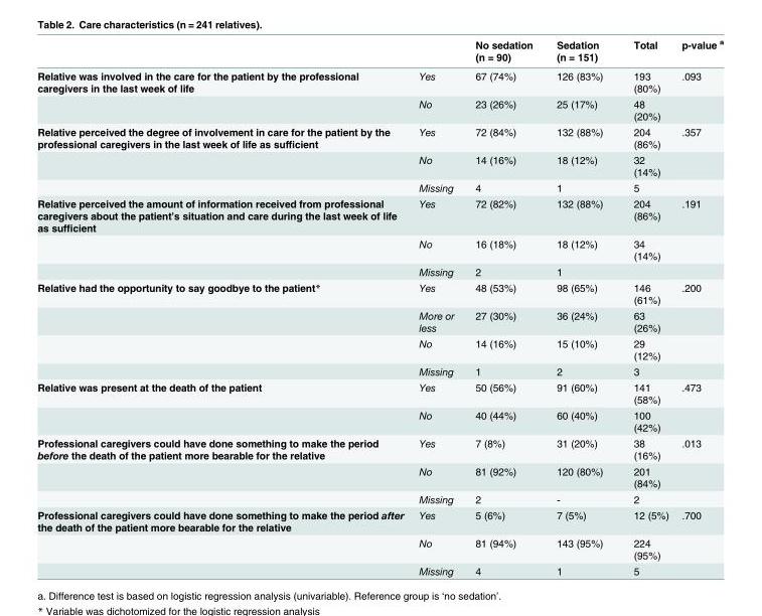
<table><thead><tr><td></td><td></td><td>No sedation (n = 90)</td><td>Sedation (n = 151)</td><td>Total</td><td>p-value <sup>a</sup></td></tr></thead><tbody><tr><td rowspan="2">Relative was involved in the care for the patient by the professional caregivers in the last week of life</td><td>Yes</td><td>67 (74%)</td><td>126 (83%)</td><td>193 (80%)</td><td>.093</td></tr><tr><td>No</td><td>23 (26%)</td><td>25 (17%)</td><td>48 (20%)</td><td></td></tr><tr><td rowspan="3">Relative perceived the degree of involvement in care for the patient by the professional caregivers in the last week of life as sufficient</td><td>Yes</td><td>72 (84%)</td><td>132 (88%)</td><td>204 (86%)</td><td>.357</td></tr><tr><td>No</td><td>14 (16%)</td><td>18 (12%)</td><td>32 (14%)</td><td></td></tr><tr><td>Missing</td><td>4</td><td>1</td><td>5</td><td></td></tr><tr><td rowspan="3">Relative perceived the amount of information received from professional caregivers about the patient’s situation and care during the last week of life as sufficient</td><td>Yes</td><td>72 (82%)</td><td>132 (88%)</td><td>204 (86%)</td><td>.191</td></tr><tr><td>No</td><td>16 (18%)</td><td>18 (12%)</td><td>34 (14%)</td><td></td></tr><tr><td>Missing</td><td>2</td><td>1</td><td></td><td></td></tr><tr><td rowspan="4">Relative had the opportunity to say goodbye to the patient*</td><td>Yes</td><td>48 (53%)</td><td>98 (65%)</td><td>146 (61%)</td><td>.200</td></tr><tr><td>More or less</td><td>27 (30%)</td><td>36 (24%)</td><td>63 (26%)</td><td></td></tr><tr><td>No</td><td>14 (16%)</td><td>15 (10%)</td><td>29 (12%)</td><td></td></tr><tr><td>Missing</td><td>1</td><td>2</td><td>3</td><td></td></tr><tr><td rowspan="2">Relative was present at the death of the patient</td><td>Yes</td><td>50 (56%)</td><td>91 (60%)</td><td>141 (58%)</td><td>.473</td></tr><tr><td>No</td><td>40 (44%)</td><td>60 (40%)</td><td>100 (42%)</td><td></td></tr><tr><td rowspan="3">Professional caregivers could have done something to make the period before the death of the patient more bearable for the relative</td><td>Yes</td><td>7 (8%)</td><td>31 (20%)</td><td>38 (16%)</td><td>.013</td></tr><tr><td>No</td><td>81 (92%)</td><td>120 (80%)</td><td>201 (84%)</td><td></td></tr><tr><td>Missing</td><td>2</td><td>-</td><td>2</td><td></td></tr><tr><td rowspan="3">Professional caregivers could have done something to make the period after the death of the patient more bearable for the relative</td><td>Yes</td><td>5 (6%)</td><td>7 (5%)</td><td>12 (5%)</td><td>.700</td></tr><tr><td>No</td><td>81 (94%)</td><td>143 (95%)</td><td>224 (95%)</td><td></td></tr><tr><td>Missing</td><td>4</td><td>1</td><td>5</td><td></td></tr></tbody></table>